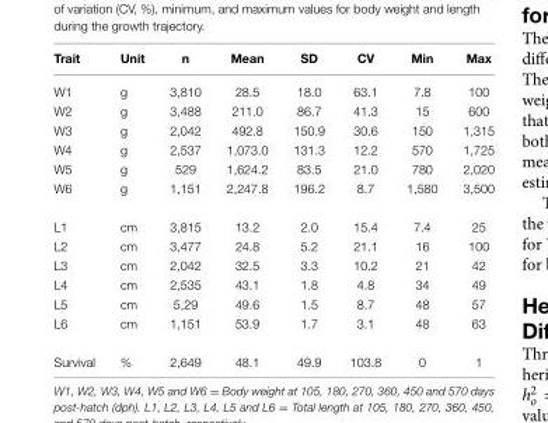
<table><thead><tr><td>Trait</td><td>Unit</td><td>n</td><td>Mean</td><td>SD</td><td>CV</td><td>Min</td><td>Max</td></tr></thead><tbody><tr><td>W1</td><td>g</td><td>3,810</td><td>28.5</td><td>18.0</td><td>63.1</td><td>7.8</td><td>100</td></tr><tr><td>W2</td><td>g</td><td>3,488</td><td>211.0</td><td>86.7</td><td>41.3</td><td>15</td><td>600</td></tr><tr><td>W3</td><td>g</td><td>2,042</td><td>492.8</td><td>150.9</td><td>30.6</td><td>150</td><td>1,315</td></tr><tr><td>W4</td><td>g</td><td>2,537</td><td>1,073.0</td><td>131.3</td><td>12.2</td><td>570</td><td>1,725</td></tr><tr><td>W5</td><td>g</td><td>529</td><td>1,624.2</td><td>83.5</td><td>21.0</td><td>780</td><td>2,020</td></tr><tr><td>W6</td><td>g</td><td>1,151</td><td>2,247.8</td><td>196.2</td><td>8.7</td><td>1,580</td><td>3,500</td></tr><tr><td>L1</td><td>cm</td><td>3,815</td><td>13.2</td><td>2.0</td><td>15.4</td><td>7.4</td><td>25</td></tr><tr><td>L2</td><td>cm</td><td>3,477</td><td>24.8</td><td>5.2</td><td>21.1</td><td>16</td><td>100</td></tr><tr><td>L3</td><td>cm</td><td>2,042</td><td>32.5</td><td>3.3</td><td>10.2</td><td>21</td><td>42</td></tr><tr><td>L4</td><td>cm</td><td>2,535</td><td>43.1</td><td>1.8</td><td>4.8</td><td>34</td><td>49</td></tr><tr><td>L5</td><td>cm</td><td>5,29</td><td>49.6</td><td>1.5</td><td>8.7</td><td>48</td><td>57</td></tr><tr><td>L6</td><td>cm</td><td>1,151</td><td>53.9</td><td>1.7</td><td>3.1</td><td>48</td><td>63</td></tr><tr><td>Survival</td><td>%</td><td>2,649</td><td>48.1</td><td>49.9</td><td>103.8</td><td>0</td><td>1</td></tr></tbody></table>